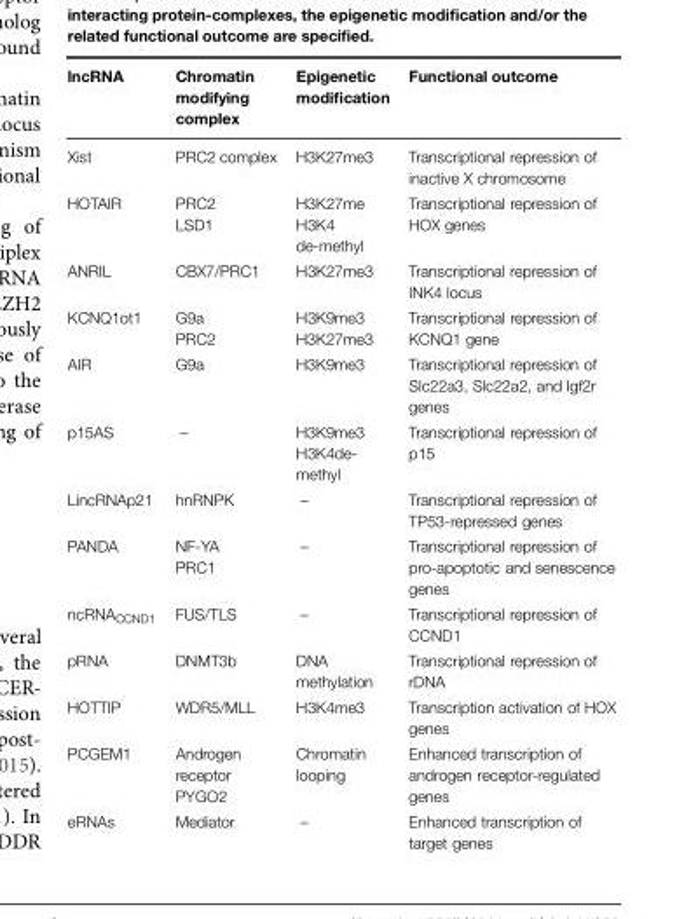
<table><thead><tr><td>lncRNA</td><td>Chromatin modifying complex</td><td>Epigenetic modification</td><td>Functional outcome</td></tr></thead><tbody><tr><td>Xist</td><td>PRC2 complex</td><td>H3K27me3</td><td>Transcriptional repression of inactive X chromosome</td></tr><tr><td>HOTAIR</td><td>PRC2 LSD1</td><td>H3K27me H3K4 de-methyl</td><td>Transcriptional repression of HOX genes</td></tr><tr><td>ANRIL</td><td>CBX7/PRC1</td><td>H3K27me3</td><td>Transcriptional repression of INK4 locus</td></tr><tr><td>KCNQ1ot1</td><td>G9a PRC2</td><td>H3K9me3 H3K27me3</td><td>Transcriptional repression of KCNQ1 gene</td></tr><tr><td>AIR</td><td>G9a</td><td>H3K9me3</td><td>Transcriptional repression of Slc22a3, Slc22a2, and Igf2r genes</td></tr><tr><td>p15AS</td><td>–</td><td>H3K9me3 H3K4de- methyl</td><td>Transcriptional repression of p15</td></tr><tr><td>LincRNAp21</td><td>hnRNPK</td><td>–</td><td>Transcriptional repression of TP53-repressed genes</td></tr><tr><td>PANDA</td><td>NF-YA PRC1</td><td>–</td><td>Transcriptional repression of pro-apoptotic and senescence genes</td></tr><tr><td>ncRNA<sub>CCND1</sub></td><td>FUS/TLS</td><td>–</td><td>Transcriptional repression of CCND1</td></tr><tr><td>pRNA</td><td>DNMT3b</td><td>DNA methylation</td><td>Transcriptional repression of rDNA</td></tr><tr><td>HOTTIP</td><td>WDR5/MLL</td><td>H3K4me3</td><td>Transcription activation of HOX genes</td></tr><tr><td>PCGEM1</td><td>Androgen receptor PYGO2</td><td>Chromatin looping</td><td>Enhanced transcription of androgen receptor-regulated genes</td></tr><tr><td>eRNAs</td><td>Mediator</td><td>–</td><td>Enhanced transcription of target genes</td></tr></tbody></table>